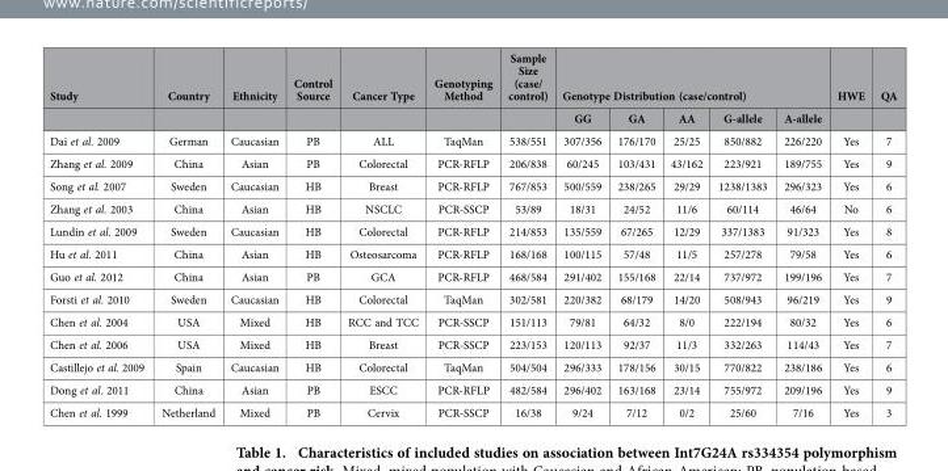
<table><thead><tr><td rowspan="2">Study</td><td rowspan="2">Country</td><td rowspan="2">Ethnicity</td><td rowspan="2">Control Source</td><td rowspan="2">Cancer Type</td><td rowspan="2">Genotyping Method</td><td rowspan="2">Sample Size (case/ control)</td><td colspan="5">Genotype Distribution (case/control)</td><td rowspan="2">HWE</td><td rowspan="2">QA</td></tr><tr><td>GG</td><td>GA</td><td>AA</td><td>G-allele</td><td>A-allele</td></tr></thead><tbody><tr><td>Dai et al. 2009</td><td>German</td><td>Caucasian</td><td>PB</td><td>ALL</td><td>TaqMan</td><td>538/551</td><td>307/356</td><td>176/170</td><td>25/25</td><td>850/882</td><td>226/220</td><td>Yes</td><td>7</td></tr><tr><td>Zhang et al. 2009</td><td>China</td><td>Asian</td><td>PB</td><td>Colorectal</td><td>PCR-RFLP</td><td>206/838</td><td>60/245</td><td>103/431</td><td>43/162</td><td>223/921</td><td>189/755</td><td>Yes</td><td>9</td></tr><tr><td>Song et al. 2007</td><td>Sweden</td><td>Caucasian</td><td>HB</td><td>Breast</td><td>PCR-RFLP</td><td>767/853</td><td>500/559</td><td>238/265</td><td>29/29</td><td>1238/1383</td><td>296/323</td><td>Yes</td><td>6</td></tr><tr><td>Zhang et al. 2003</td><td>China</td><td>Asian</td><td>HB</td><td>NSCLC</td><td>PCR-SSCP</td><td>53/89</td><td>18/31</td><td>24/52</td><td>11/6</td><td>60/114</td><td>46/64</td><td>No</td><td>6</td></tr><tr><td>Lundin et al. 2009</td><td>Sweden</td><td>Caucasian</td><td>HB</td><td>Colorectal</td><td>PCR-RFLP</td><td>214/853</td><td>135/559</td><td>67/265</td><td>12/29</td><td>337/1383</td><td>91/323</td><td>Yes</td><td>8</td></tr><tr><td>Hu et al. 2011</td><td>China</td><td>Asian</td><td>HB</td><td>Osteosarcoma</td><td>PCR-RFLP</td><td>168/168</td><td>100/115</td><td>57/48</td><td>11/5</td><td>257/278</td><td>79/58</td><td>Yes</td><td>6</td></tr><tr><td>Guo et al. 2012</td><td>China</td><td>Asian</td><td>PB</td><td>GCA</td><td>PCR-RFLP</td><td>468/584</td><td>291/402</td><td>155/168</td><td>22/14</td><td>737/972</td><td>199/196</td><td>Yes</td><td>7</td></tr><tr><td>Forsti et al. 2010</td><td>Sweden</td><td>Caucasian</td><td>HB</td><td>Colorectal</td><td>TaqMan</td><td>302/581</td><td>220/382</td><td>68/179</td><td>14/20</td><td>508/943</td><td>96/219</td><td>Yes</td><td>9</td></tr><tr><td>Chen et al. 2004</td><td>USA</td><td>Mixed</td><td>HB</td><td>RCC and TCC</td><td>PCR-SSCP</td><td>151/113</td><td>79/81</td><td>64/32</td><td>8/0</td><td>222/194</td><td>80/32</td><td>Yes</td><td>6</td></tr><tr><td>Chen et al. 2006</td><td>USA</td><td>Mixed</td><td>HB</td><td>Breast</td><td>PCR-SSCP</td><td>223/153</td><td>120/113</td><td>92/37</td><td>11/3</td><td>332/263</td><td>114/43</td><td>Yes</td><td>7</td></tr><tr><td>Castillejo et al. 2009</td><td>Spain</td><td>Caucasian</td><td>HB</td><td>Colorectal</td><td>TaqMan</td><td>504/504</td><td>296/333</td><td>178/156</td><td>30/15</td><td>770/822</td><td>238/186</td><td>Yes</td><td>6</td></tr><tr><td>Dong et al. 2011</td><td>China</td><td>Asian</td><td>PB</td><td>ESCC</td><td>PCR-RFLP</td><td>482/584</td><td>296/402</td><td>163/168</td><td>23/14</td><td>755/972</td><td>209/196</td><td>Yes</td><td>9</td></tr><tr><td>Chen et al. 1999</td><td>Netherland</td><td>Mixed</td><td>PB</td><td>Cervix</td><td>PCR-SSCP</td><td>16/38</td><td>9/24</td><td>7/12</td><td>0/2</td><td>25/60</td><td>7/16</td><td>Yes</td><td>3</td></tr></tbody></table>